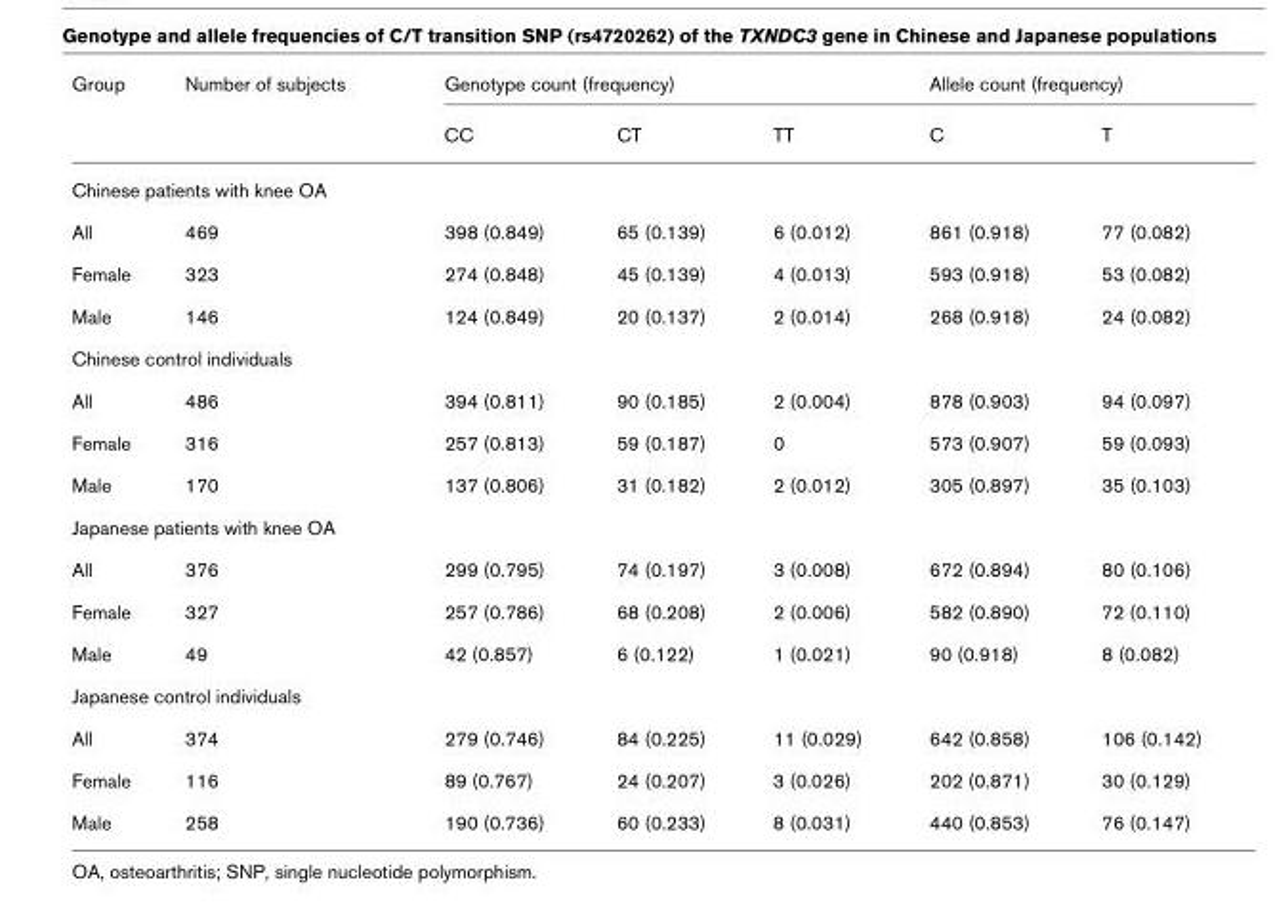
<table><thead><tr><td rowspan="2">Group</td><td rowspan="2">Number of subjects</td><td colspan="3">Genotype count (frequency)</td><td colspan="2">Allele count (frequency)</td></tr><tr><td>CC</td><td>CT</td><td>TT</td><td>C</td><td>T</td></tr></thead><tbody><tr><td colspan="7">Chinese patients with knee OA</td></tr><tr><td>All</td><td>469</td><td>398 (0.849)</td><td>65 (0.139)</td><td>6 (0.012)</td><td>861 (0.918)</td><td>77 (0.082)</td></tr><tr><td>Female</td><td>323</td><td>274 (0.848)</td><td>45 (0.139)</td><td>4 (0.013)</td><td>593 (0.918)</td><td>53 (0.082)</td></tr><tr><td>Male</td><td>146</td><td>124 (0.849)</td><td>20 (0.137)</td><td>2 (0.014)</td><td>268 (0.918)</td><td>24 (0.082)</td></tr><tr><td colspan="7">Chinese control individuals</td></tr><tr><td>All</td><td>486</td><td>394 (0.811)</td><td>90 (0.185)</td><td>2 (0.004)</td><td>878 (0.903)</td><td>94 (0.097)</td></tr><tr><td>Female</td><td>316</td><td>257 (0.813)</td><td>59 (0.187)</td><td>0</td><td>573 (0.907)</td><td>59 (0.093)</td></tr><tr><td>Male</td><td>170</td><td>137 (0.806)</td><td>31 (0.182)</td><td>2 (0.012)</td><td>305 (0.897)</td><td>35 (0.103)</td></tr><tr><td colspan="7">Japanese patients with knee OA</td></tr><tr><td>All</td><td>376</td><td>299 (0.795)</td><td>74 (0.197)</td><td>3 (0.008)</td><td>672 (0.894)</td><td>80 (0.106)</td></tr><tr><td>Female</td><td>327</td><td>257 (0.786)</td><td>68 (0.208)</td><td>2 (0.006)</td><td>582 (0.890)</td><td>72 (0.110)</td></tr><tr><td>Male</td><td>49</td><td>42 (0.857)</td><td>6 (0.122)</td><td>1 (0.021)</td><td>90 (0.918)</td><td>8 (0.082)</td></tr><tr><td colspan="7">Japanese control individuals</td></tr><tr><td>All</td><td>374</td><td>279 (0.746)</td><td>84 (0.225)</td><td>11 (0.029)</td><td>642 (0.858)</td><td>106 (0.142)</td></tr><tr><td>Female</td><td>116</td><td>89 (0.767)</td><td>24 (0.207)</td><td>3 (0.026)</td><td>202 (0.871)</td><td>30 (0.129)</td></tr><tr><td>Male</td><td>258</td><td>190 (0.736)</td><td>60 (0.233)</td><td>8 (0.031)</td><td>440 (0.853)</td><td>76 (0.147)</td></tr></tbody></table>